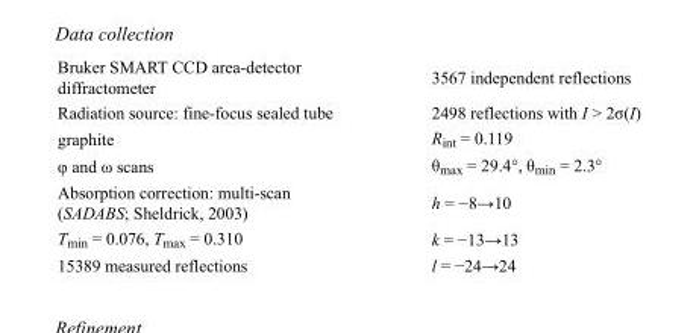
<table><tbody><tr><td>Bruker SMART CCD area-detector diffractometer</td><td>3567 independent reflections</td></tr><tr><td>Radiation source: fine-focus sealed tube</td><td>2498 reflections with I &gt; 2σ(I)</td></tr><tr><td>graphite</td><td>R<sub>int</sub> = 0.119</td></tr><tr><td>φ and ω scans</td><td>θ<sub>max</sub> = 29.4°, θ<sub>min</sub> = 2.3°</td></tr><tr><td>Absorption correction: multi-scan (SADABS; Sheldrick, 2003)</td><td>h = −8→10</td></tr><tr><td>T<sub>min</sub> = 0.076, T<sub>max</sub> = 0.310</td><td>k = −13→13</td></tr><tr><td>15389 measured reflections</td><td>l = −24→24</td></tr></tbody></table>